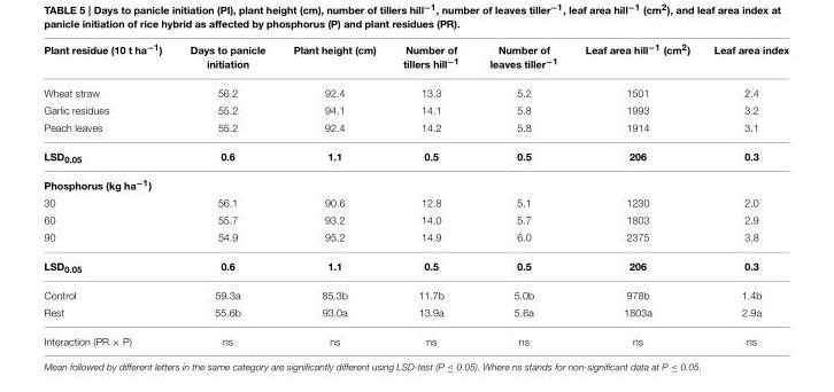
<table><thead><tr><td>Plant residue (10 t ha<sup>−1</sup>)</td><td>Days to panicle initiation</td><td>Plant height (cm)</td><td>Number of tillers hill<sup>−1</sup></td><td>Number of leaves tiller<sup>−1</sup></td><td>Leaf area hill<sup>−1</sup> (cm<sup>2</sup>)</td><td>Leaf area index</td></tr></thead><tbody><tr><td>Wheat straw</td><td>56.2</td><td>92.4</td><td>13.3</td><td>5.2</td><td>1501</td><td>2.4</td></tr><tr><td>Garlic residues</td><td>55.2</td><td>94.1</td><td>14.1</td><td>5.8</td><td>1993</td><td>3.2</td></tr><tr><td>Peach leaves</td><td>55.2</td><td>92.4</td><td>14.2</td><td>5.8</td><td>1914</td><td>3.1</td></tr><tr><td>LSD<sub>0.05</sub></td><td>0.6</td><td>1.1</td><td>0.5</td><td>0.5</td><td>206</td><td>0.3</td></tr><tr><td colspan="7">Phosphorus (kg ha<sup>−1</sup>)</td></tr><tr><td>30</td><td>56.1</td><td>90.6</td><td>12.8</td><td>5.1</td><td>1230</td><td>2.0</td></tr><tr><td>60</td><td>55.7</td><td>93.2</td><td>14.0</td><td>5.7</td><td>1803</td><td>2.9</td></tr><tr><td>90</td><td>54.9</td><td>95.2</td><td>14.9</td><td>6.0</td><td>2375</td><td>3.8</td></tr><tr><td>LSD<sub>0.05</sub></td><td>0.6</td><td>1.1</td><td>0.5</td><td>0.5</td><td>206</td><td>0.3</td></tr><tr><td>Control</td><td>59.3a</td><td>85.3b</td><td>11.7b</td><td>5.0b</td><td>978b</td><td>1.4b</td></tr><tr><td>Rest</td><td>55.6b</td><td>93.0a</td><td>13.9a</td><td>5.6a</td><td>1803a</td><td>2.9a</td></tr><tr><td>Interaction (PR × P)</td><td>ns</td><td>ns</td><td>ns</td><td>ns</td><td>ns</td><td>ns</td></tr></tbody></table>